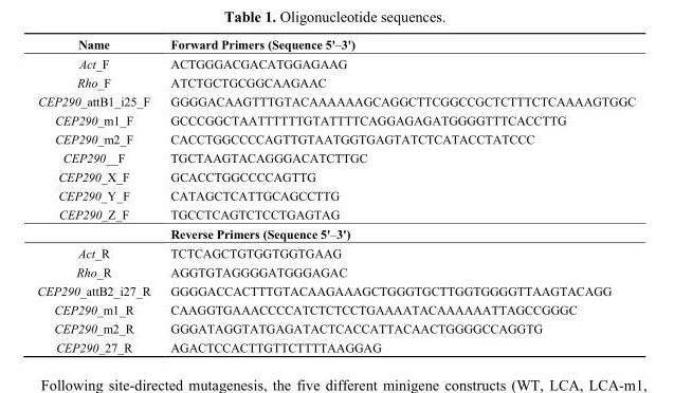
<table><thead><tr><td>Name</td><td>Forward Primers (Sequence 5&#x27;–3&#x27;)</td></tr></thead><tbody><tr><td>Act_F</td><td>ACTGGGACGACATGGAGAAG</td></tr><tr><td>Rho_F</td><td>ATCTGCTGCGGCAAGAAC</td></tr><tr><td>CEP290_attB1_i25_F</td><td>GGGGACAAGTTTGTACAAAAAAGCAGGCTTCGGCCGCTCTTTCTCAAAAGTGGC</td></tr><tr><td>CEP290_m1_F</td><td>GCCCGGCTAATTTTTTGTATTTTCAGGAGAGATGGGGTTTCACCTTG</td></tr><tr><td>CEP290_m2_F</td><td>CACCTGGCCCCAGTTGTAATGGTGAGTATCTCATACCTATCCC</td></tr><tr><td>CEP290__F</td><td>TGCTAAGTACAGGGACATCTTGC</td></tr><tr><td>CEP290_X_F</td><td>GCACCTGGCCCCAGTTG</td></tr><tr><td>CEP290_Y_F</td><td>CATAGCTCATTGCAGCCTTG</td></tr><tr><td rowspan="2">CEP290_Z_F</td><td>TGCCTCAGTCTCCTGAGTAG</td></tr><tr><td>Reverse Primers (Sequence 5&#x27;–3&#x27;)</td></tr><tr><td>Act_R</td><td>TCTCAGCTGTGGTGGTGAAG</td></tr><tr><td>Rho_R</td><td>AGGTGTAGGGGATGGGAGAC</td></tr><tr><td>CEP290_attB2_i27_R</td><td>GGGGACCACTTTGTACAAGAAAGCTGGGTGCTTGGTGGGGTTAAGTACAGG</td></tr><tr><td>CEP290_m1_R</td><td>CAAGGTGAAACCCCATCTCTCCTGAAAATACAAAAAATTAGCCGGGC</td></tr><tr><td>CEP290_m2_R</td><td>GGGATAGGTATGAGATACTCACCATTACAACTGGGGCCAGGTG</td></tr><tr><td>CEP290_27_R</td><td>AGACTCCACTTGTTCTTTTAAGGAG</td></tr></tbody></table>